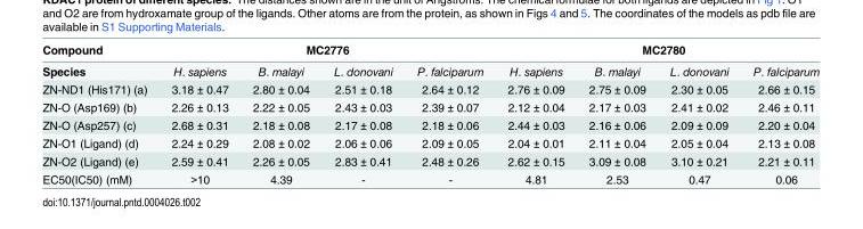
<table><thead><tr><td rowspan="2">Compound Species</td><td colspan="4">MC2776</td><td colspan="4">MC2780</td></tr><tr><td>H. sapiens</td><td>B. malayi</td><td>L. donovani</td><td>P. falciparum</td><td>H. sapiens</td><td>B. malayi</td><td>L. donovani</td><td>P. falciparum</td></tr></thead><tbody><tr><td>ZN-ND1 (His171) (a)</td><td>3.18 ± 0.47</td><td>2.80 ± 0.04</td><td>2.51 ± 0.18</td><td>2.64 ± 0.12</td><td>2.76 ± 0.09</td><td>2.75 ± 0.09</td><td>2.30 ± 0.05</td><td>2.66 ± 0.15</td></tr><tr><td>ZN-O (Asp169) (b)</td><td>2.26 ± 0.13</td><td>2.22 ± 0.05</td><td>2.43 ± 0.03</td><td>2.39 ± 0.07</td><td>2.12 ± 0.04</td><td>2.17 ± 0.03</td><td>2.41 ± 0.02</td><td>2.46 ± 0.11</td></tr><tr><td>ZN-O (Asp257) (c)</td><td>2.68 ± 0.31</td><td>2.18 ± 0.08</td><td>2.17 ± 0.08</td><td>2.18 ± 0.06</td><td>2.44 ± 0.03</td><td>2.16 ± 0.06</td><td>2.09 ± 0.09</td><td>2.20 ± 0.04</td></tr><tr><td>ZN-O1 (Ligand) (d)</td><td>2.24 ± 0.29</td><td>2.08 ± 0.02</td><td>2.06 ± 0.06</td><td>2.09 ± 0.05</td><td>2.04 ± 0.01</td><td>2.11 ± 0.04</td><td>2.05 ± 0.04</td><td>2.13 ± 0.08</td></tr><tr><td>ZN-O2 (Ligand) (e)</td><td>2.59 ± 0.41</td><td>2.26 ± 0.05</td><td>2.83 ± 0.41</td><td>2.48 ± 0.26</td><td>2.62 ± 0.15</td><td>3.09 ± 0.08</td><td>3.10 ± 0.21</td><td>2.21 ± 0.11</td></tr><tr><td>EC50(IC50) (mM)</td><td>&gt;10</td><td>4.39</td><td>-</td><td>-</td><td>4.81</td><td>2.53</td><td>0.47</td><td>0.06</td></tr></tbody></table>